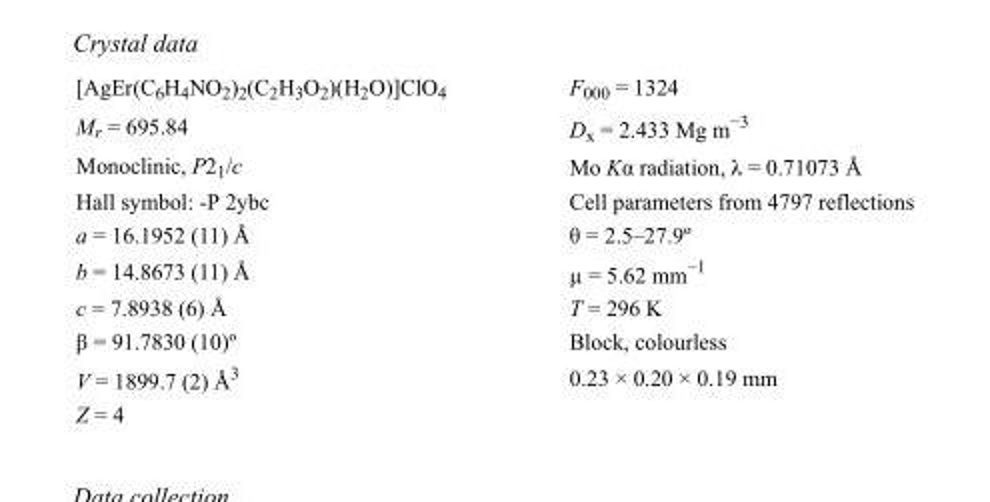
<table><tbody><tr><td>[AgEr(C<sub>6</sub>H<sub>4</sub>NO<sub>2</sub>)<sub>2</sub>(C<sub>2</sub>H<sub>3</sub>O<sub>2</sub>)(H<sub>2</sub>O)]ClO<sub>4</sub></td><td>F000 = 1324</td></tr><tr><td>M<sub>r</sub> = 695.84</td><td>D<sub>x</sub> = 2.433 Mg m<sup>−3</sup></td></tr><tr><td>Monoclinic, P2<sub>1</sub>/c</td><td>Mo Kα radiation, λ = 0.71073 Å</td></tr><tr><td>Hall symbol: -P 2ybc</td><td>Cell parameters from 4797 reflections</td></tr><tr><td>a = 16.1952 (11) Å</td><td>θ = 2.5–27.9º</td></tr><tr><td>b = 14.8673 (11) Å</td><td>µ = 5.62 mm<sup>−1</sup></td></tr><tr><td>c = 7.8938 (6) Å</td><td>T = 296 K</td></tr><tr><td>β = 91.7830 (10)º</td><td>Block, colourless</td></tr><tr><td>V = 1899.7 (2) Å<sup>3</sup></td><td>0.23 × 0.20 × 0.19 mm</td></tr><tr><td>Z = 4</td><td></td></tr></tbody></table>